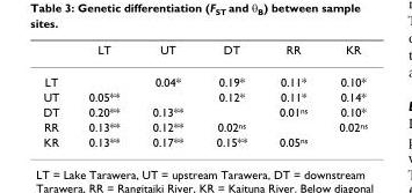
<table><thead><tr><td></td><td>LT</td><td>UT</td><td>DT</td><td>RR</td><td>KR</td></tr></thead><tbody><tr><td>LT</td><td></td><td>0.04*</td><td>0.19*</td><td>0.11*</td><td>0.10*</td></tr><tr><td>UT</td><td>0.05**</td><td></td><td>0.12*</td><td>0.11*</td><td>0.14*</td></tr><tr><td>DT</td><td>0.20**</td><td>0.13**</td><td></td><td>0.01<sup>ns</sup></td><td>0.10*</td></tr><tr><td>RR</td><td>0.13**</td><td>0.12**</td><td>0.02<sup>ns</sup></td><td></td><td>0.02<sup>ns</sup></td></tr><tr><td>KR</td><td>0.13**</td><td>0.17**</td><td>0.15**</td><td>0.05<sup>ns</sup></td><td></td></tr></tbody></table>